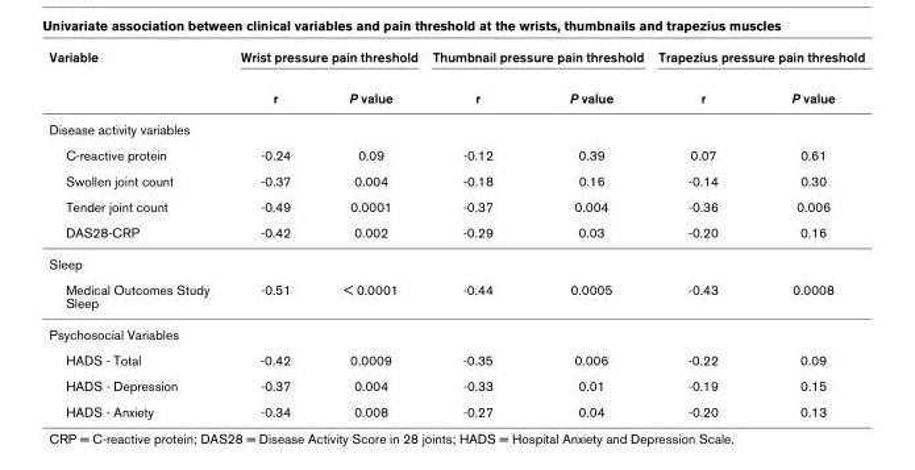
<table><thead><tr><td rowspan="2">Variable</td><td colspan="2">Wrist pressure pain threshold</td><td colspan="2">Thumbnail pressure pain threshold</td><td colspan="2">Trapezius pressure pain threshold</td></tr><tr><td>r</td><td>P value</td><td>r</td><td>P value</td><td>r</td><td>P value</td></tr></thead><tbody><tr><td colspan="7">Disease activity variables</td></tr><tr><td>C-reactive protein</td><td>-0.24</td><td>0.09</td><td>-0.12</td><td>0.39</td><td>0.07</td><td>0.61</td></tr><tr><td>Swollen joint count</td><td>-0.37</td><td>0.004</td><td>-0.18</td><td>0.16</td><td>-0.14</td><td>0.30</td></tr><tr><td>Tender joint count</td><td>-0.49</td><td>0.0001</td><td>-0.37</td><td>0.004</td><td>-0.36</td><td>0.006</td></tr><tr><td>DAS28-CRP</td><td>-0.42</td><td>0.002</td><td>-0.29</td><td>0.03</td><td>-0.20</td><td>0.16</td></tr><tr><td colspan="7">Sleep</td></tr><tr><td>Medical Outcomes Study Sleep</td><td>-0.51</td><td>&lt; 0.0001</td><td>-0.44</td><td>0.0005</td><td>-0.43</td><td>0.0008</td></tr><tr><td colspan="7">Psychosocial Variables</td></tr><tr><td>HADS - Total</td><td>-0.42</td><td>0.0009</td><td>-0.35</td><td>0.006</td><td>-0.22</td><td>0.09</td></tr><tr><td>HADS - Depression</td><td>-0.37</td><td>0.004</td><td>-0.33</td><td>0.01</td><td>-0.19</td><td>0.15</td></tr><tr><td>HADS - Anxiety</td><td>-0.34</td><td>0.008</td><td>-0.27</td><td>0.04</td><td>-0.20</td><td>0.13</td></tr></tbody></table>